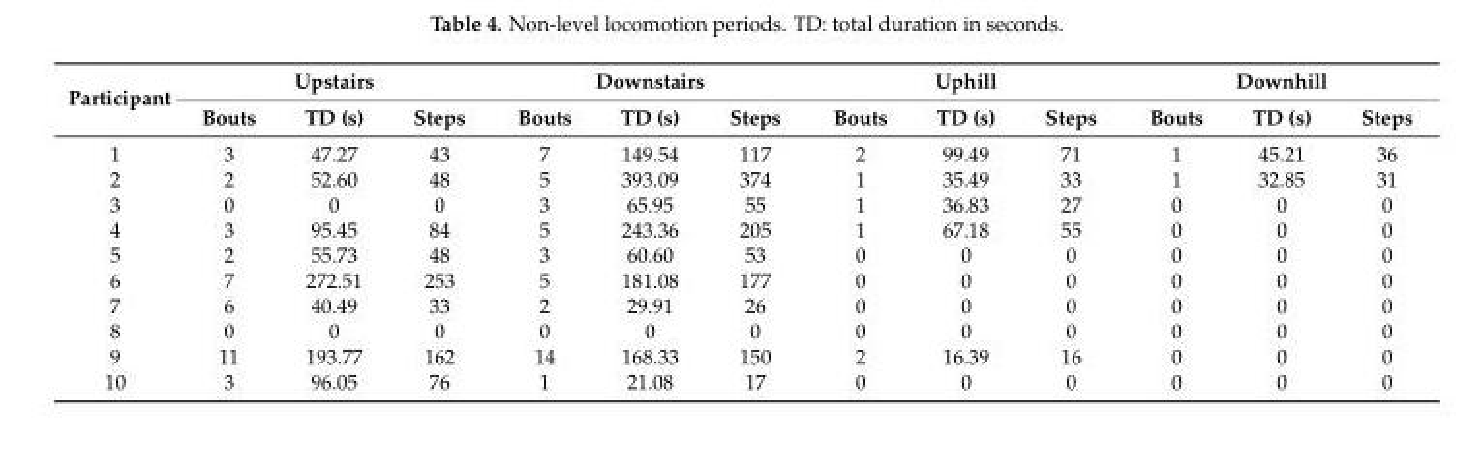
<table><thead><tr><td rowspan="2">Participant</td><td colspan="3">Upstairs</td><td colspan="3">Downstairs</td><td colspan="3">Uphill</td><td colspan="3">Downhill</td></tr><tr><td>Bouts</td><td>TD (s)</td><td>Steps</td><td>Bouts</td><td>TD (s)</td><td>Steps</td><td>Bouts</td><td>TD (s)</td><td>Steps</td><td>Bouts</td><td>TD (s)</td><td>Steps</td></tr></thead><tbody><tr><td>1</td><td>3</td><td>47.27</td><td>43</td><td>7</td><td>149.54</td><td>117</td><td>2</td><td>99.49</td><td>71</td><td>1</td><td>45.21</td><td>36</td></tr><tr><td>2</td><td>2</td><td>52.60</td><td>48</td><td>5</td><td>393.09</td><td>374</td><td>1</td><td>35.49</td><td>33</td><td>1</td><td>32.85</td><td>31</td></tr><tr><td>3</td><td>0</td><td>0</td><td>0</td><td>3</td><td>65.95</td><td>55</td><td>1</td><td>36.83</td><td>27</td><td>0</td><td>0</td><td>0</td></tr><tr><td>4</td><td>3</td><td>95.45</td><td>84</td><td>5</td><td>243.36</td><td>205</td><td>1</td><td>67.18</td><td>55</td><td>0</td><td>0</td><td>0</td></tr><tr><td>5</td><td>2</td><td>55.73</td><td>48</td><td>3</td><td>60.60</td><td>53</td><td>0</td><td>0</td><td>0</td><td>0</td><td>0</td><td>0</td></tr><tr><td>6</td><td>7</td><td>272.51</td><td>253</td><td>5</td><td>181.08</td><td>177</td><td>0</td><td>0</td><td>0</td><td>0</td><td>0</td><td>0</td></tr><tr><td>7</td><td>6</td><td>40.49</td><td>33</td><td>2</td><td>29.91</td><td>26</td><td>0</td><td>0</td><td>0</td><td>0</td><td>0</td><td>0</td></tr><tr><td>8</td><td>0</td><td>0</td><td>0</td><td>0</td><td>0</td><td>0</td><td>0</td><td>0</td><td>0</td><td>0</td><td>0</td><td>0</td></tr><tr><td>9</td><td>11</td><td>193.77</td><td>162</td><td>14</td><td>168.33</td><td>150</td><td>2</td><td>16.39</td><td>16</td><td>0</td><td>0</td><td>0</td></tr><tr><td>10</td><td>3</td><td>96.05</td><td>76</td><td>1</td><td>21.08</td><td>17</td><td>0</td><td>0</td><td>0</td><td>0</td><td>0</td><td>0</td></tr></tbody></table>